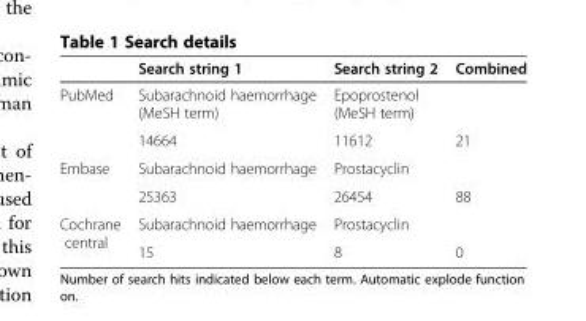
<table><thead><tr><td></td><td>Search string 1</td><td>Search string 2</td><td>Combined</td></tr></thead><tbody><tr><td rowspan="2">PubMed</td><td>Subarachnoid haemorrhage (MeSH term)</td><td>Epoprostenol (MeSH term)</td><td></td></tr><tr><td>14664</td><td>11612</td><td>21</td></tr><tr><td rowspan="2">Embase</td><td>Subarachnoid haemorrhage</td><td>Prostacyclin</td><td></td></tr><tr><td>25363</td><td>26454</td><td>88</td></tr><tr><td rowspan="2">Cochrane central</td><td>Subarachnoid haemorrhage</td><td>Prostacyclin</td><td></td></tr><tr><td>15</td><td>8</td><td>0</td></tr></tbody></table>